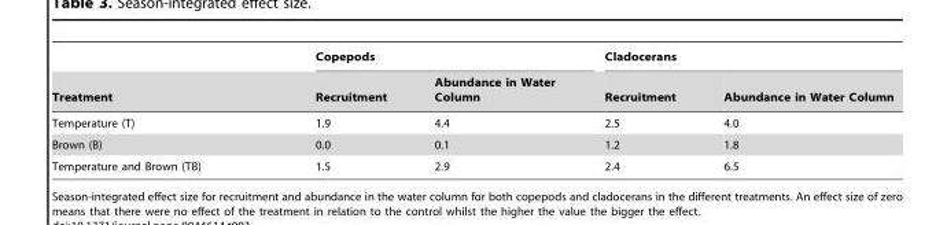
<table><thead><tr><td rowspan="2">Treatment</td><td colspan="2">Copepods</td><td colspan="2">Cladocerans</td></tr><tr><td>Recruitment</td><td>Abundance in Water Column</td><td>Recruitment</td><td>Abundance in Water Column</td></tr></thead><tbody><tr><td>Temperature (T)</td><td>1.9</td><td>4.4</td><td>2.5</td><td>4.0</td></tr><tr><td>Brown (B)</td><td>0.0</td><td>0.1</td><td>1.2</td><td>1.8</td></tr><tr><td>Temperature and Brown (TB)</td><td>1.5</td><td>2.9</td><td>2.4</td><td>6.5</td></tr></tbody></table>